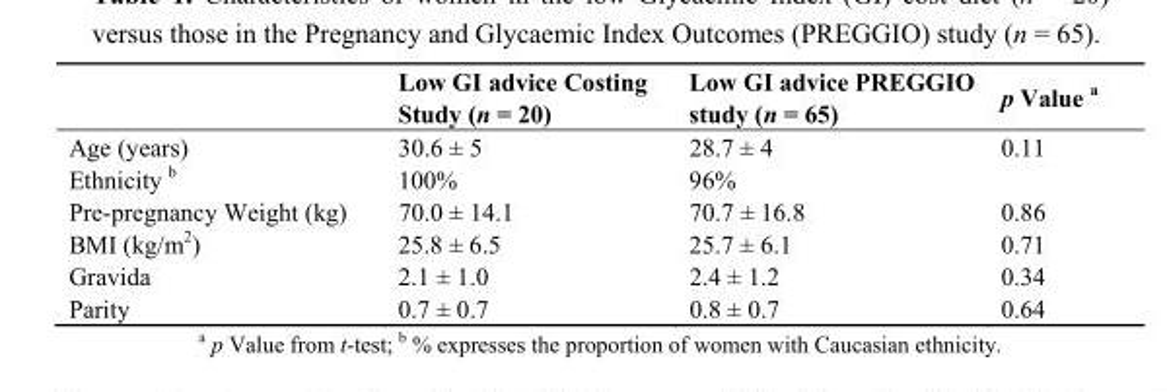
<table><thead><tr><td></td><td>Low GI advice Costing Study (n = 20)</td><td>Low GI advice PREGGIO study (n = 65)</td><td>p Value <sup>a</sup></td></tr></thead><tbody><tr><td>Age (years)</td><td>30.6 ± 5</td><td>28.7 ± 4</td><td>0.11</td></tr><tr><td>Ethnicity <sup>b</sup></td><td>100%</td><td>96%</td><td></td></tr><tr><td>Pre-pregnancy Weight (kg)</td><td>70.0 ± 14.1</td><td>70.7 ± 16.8</td><td>0.86</td></tr><tr><td>BMI (kg/m<sup>2</sup>)</td><td>25.8 ± 6.5</td><td>25.7 ± 6.1</td><td>0.71</td></tr><tr><td>Gravida</td><td>2.1 ± 1.0</td><td>2.4 ± 1.2</td><td>0.34</td></tr><tr><td>Parity</td><td>0.7 ± 0.7</td><td>0.8 ± 0.7</td><td>0.64</td></tr></tbody></table>